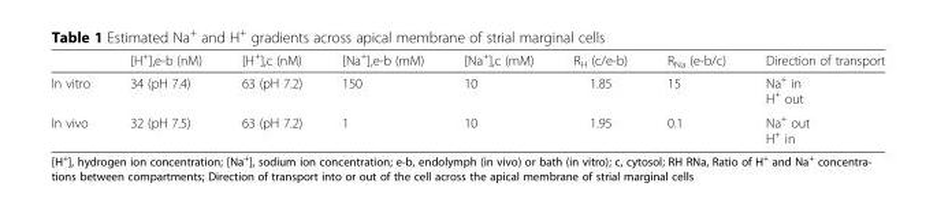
<table><thead><tr><td></td><td>[H<sup>+</sup>],e-b (nM)</td><td>[H<sup>+</sup>],c (nM)</td><td>[Na<sup>+</sup>],e-b (mM)</td><td>[Na<sup>+</sup>],c (mM)</td><td>R<sub>H</sub> (c/e-b)</td><td>R<sub>Na</sub> (e-b/c)</td><td>Direction of transport</td></tr></thead><tbody><tr><td>In vitro</td><td>34 (pH 7.4)</td><td>63 (pH 7.2)</td><td>150</td><td>10</td><td>1.85</td><td>15</td><td>Na<sup>+</sup> in H<sup>+</sup> out</td></tr><tr><td>In vivo</td><td>32 (pH 7.5)</td><td>63 (pH 7.2)</td><td>1</td><td>10</td><td>1.95</td><td>0.1</td><td>Na<sup>+</sup> out H<sup>+</sup> in</td></tr></tbody></table>